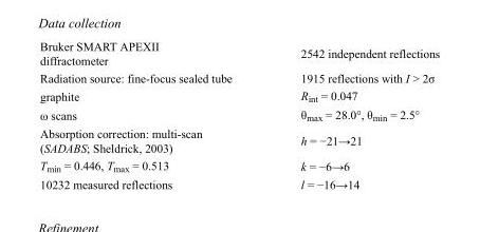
<table><tbody><tr><td>Bruker SMART APEXII diffractometer</td><td>2542 independent reflections</td></tr><tr><td>Radiation source: fine-focus sealed tube</td><td>1915 reflections with I &gt; 2σ</td></tr><tr><td>graphite</td><td>R<sub>int</sub> = 0.047</td></tr><tr><td>ω scans</td><td>θ<sub>max</sub> = 28.0°, θ<sub>min</sub> = 2.5°</td></tr><tr><td>Absorption correction: multi-scan (SADABS; Sheldrick, 2003)</td><td>h = −21→21</td></tr><tr><td>T<sub>min</sub> = 0.446, T<sub>max</sub> = 0.513</td><td>k = −6→6</td></tr><tr><td>10232 measured reflections</td><td>l = −16→14</td></tr></tbody></table>